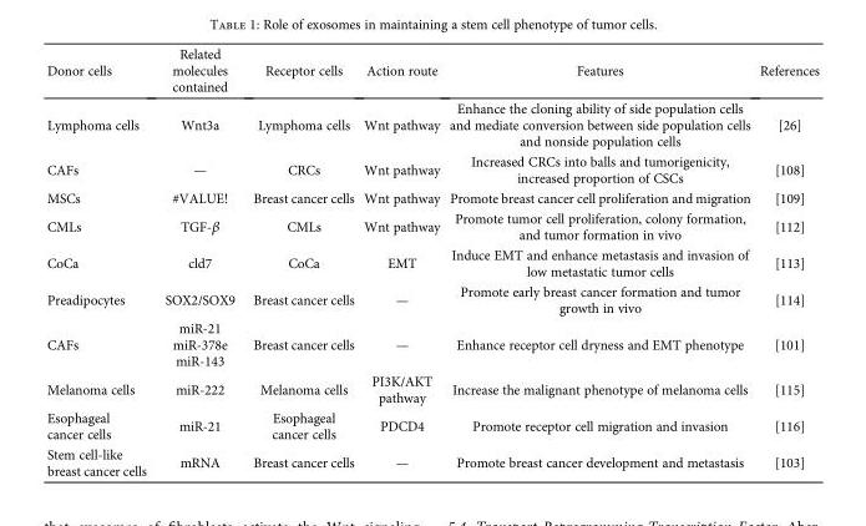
<table><thead><tr><td>Donor cells</td><td>Related molecules contained</td><td>Receptor cells</td><td>Action route</td><td>Features</td><td>References</td></tr></thead><tbody><tr><td>Lymphoma cells</td><td>Wnt3a</td><td>Lymphoma cells</td><td>Wnt pathway</td><td>Enhance the cloning ability of side population cells and mediate conversion between side population cells and nonside population cells</td><td>[26]</td></tr><tr><td>CAFs</td><td>—</td><td>CRCs</td><td>Wnt pathway</td><td>Increased CRCs into balls and tumorigenicity, increased proportion of CSCs</td><td>[108]</td></tr><tr><td>MSCs</td><td>#VALUE!</td><td>Breast cancer cells</td><td>Wnt pathway</td><td>Promote breast cancer cell proliferation and migration</td><td>[109]</td></tr><tr><td>CMLs</td><td>TGF-β</td><td>CMLs</td><td>Wnt pathway</td><td>Promote tumor cell proliferation, colony formation, and tumor formation in vivo</td><td>[112]</td></tr><tr><td>CoCa</td><td>cld7</td><td>CoCa</td><td>EMT</td><td>Induce EMT and enhance metastasis and invasion of low metastatic tumor cells</td><td>[113]</td></tr><tr><td>Preadipocytes</td><td>SOX2/SOX9</td><td>Breast cancer cells</td><td>—</td><td>Promote early breast cancer formation and tumor growth in vivo</td><td>[114]</td></tr><tr><td>CAFs</td><td>miR-21 miR-378e miR-143</td><td>Breast cancer cells</td><td>—</td><td>Enhance receptor cell dryness and EMT phenotype</td><td>[101]</td></tr><tr><td>Melanoma cells</td><td>miR-222</td><td>Melanoma cells</td><td>PI3K/AKT pathway</td><td>Increase the malignant phenotype of melanoma cells</td><td>[115]</td></tr><tr><td>Esophageal cancer cells</td><td>miR-21</td><td>Esophageal cancer cells</td><td>PDCD4</td><td>Promote receptor cell migration and invasion</td><td>[116]</td></tr><tr><td>Stem cell-like breast cancer cells</td><td>mRNA</td><td>Breast cancer cells</td><td>—</td><td>Promote breast cancer development and metastasis</td><td>[103]</td></tr></tbody></table>